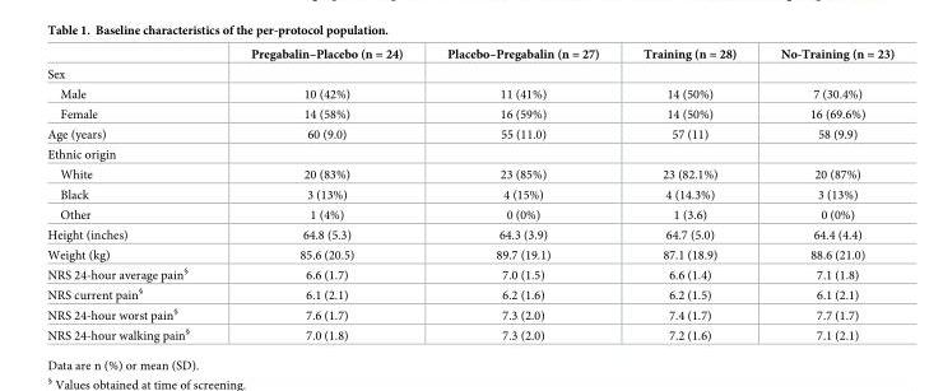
<table><thead><tr><td></td><td>Pregabalin–Placebo (n = 24)</td><td>Placebo–Pregabalin (n = 27)</td><td>Training (n = 28)</td><td>No-Training (n = 23)</td></tr></thead><tbody><tr><td colspan="5">Sex</td></tr><tr><td>Male</td><td>10 (42%)</td><td>11 (41%)</td><td>14 (50%)</td><td>7 (30.4%)</td></tr><tr><td>Female</td><td>14 (58%)</td><td>16 (59%)</td><td>14 (50%)</td><td>16 (69.6%)</td></tr><tr><td>Age (years)</td><td>60 (9.0)</td><td>55 (11.0)</td><td>57 (11)</td><td>58 (9.9)</td></tr><tr><td colspan="5">Ethnic origin</td></tr><tr><td>White</td><td>20 (83%)</td><td>23 (85%)</td><td>23 (82.1%)</td><td>20 (87%)</td></tr><tr><td>Black</td><td>3 (13%)</td><td>4 (15%)</td><td>4 (14.3%)</td><td>3 (13%)</td></tr><tr><td>Other</td><td>1 (4%)</td><td>0 (0%)</td><td>1 (3.6)</td><td>0 (0%)</td></tr><tr><td>Height (inches)</td><td>64.8 (5.3)</td><td>64.3 (3.9)</td><td>64.7 (5.0)</td><td>64.4 (4.4)</td></tr><tr><td>Weight (kg)</td><td>85.6 (20.5)</td><td>89.7 (19.1)</td><td>87.1 (18.9)</td><td>88.6 (21.0)</td></tr><tr><td>NRS 24-hour average pain<sup>§</sup></td><td>6.6 (1.7)</td><td>7.0 (1.5)</td><td>6.6 (1.4)</td><td>7.1 (1.8)</td></tr><tr><td>NRS current pain<sup>§</sup></td><td>6.1 (2.1)</td><td>6.2 (1.6)</td><td>6.2 (1.5)</td><td>6.1 (2.1)</td></tr><tr><td>NRS 24-hour worst pain<sup>§</sup></td><td>7.6 (1.7)</td><td>7.3 (2.0)</td><td>7.4 (1.7)</td><td>7.7 (1.7)</td></tr><tr><td>NRS 24-hour walking pain<sup>§</sup></td><td>7.0 (1.8)</td><td>7.3 (2.0)</td><td>7.2 (1.6)</td><td>7.1 (2.1)</td></tr></tbody></table>